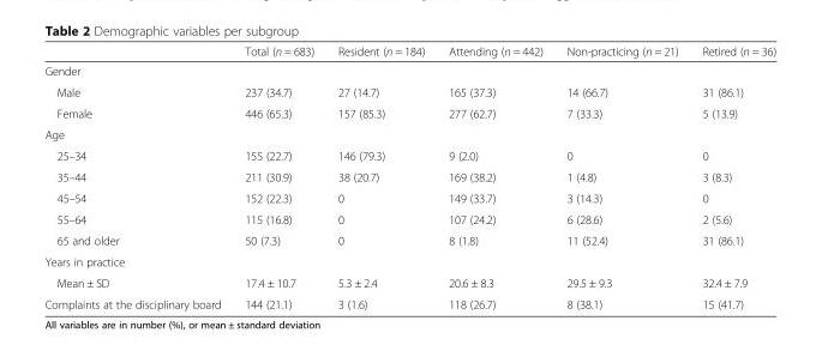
<table><thead><tr><td></td><td>Total (n = 683)</td><td>Resident (n = 184)</td><td>Attending (n = 442)</td><td>Non-practicing (n = 21)</td><td>Retired (n = 36)</td></tr></thead><tbody><tr><td colspan="6">Gender</td></tr><tr><td>Male</td><td>237 (34.7)</td><td>27 (14.7)</td><td>165 (37.3)</td><td>14 (66.7)</td><td>31 (86.1)</td></tr><tr><td>Female</td><td>446 (65.3)</td><td>157 (85.3)</td><td>277 (62.7)</td><td>7 (33.3)</td><td>5 (13.9)</td></tr><tr><td colspan="6">Age</td></tr><tr><td>25–34</td><td>155 (22.7)</td><td>146 (79.3)</td><td>9 (2.0)</td><td>0</td><td>0</td></tr><tr><td>35–44</td><td>211 (30.9)</td><td>38 (20.7)</td><td>169 (38.2)</td><td>1 (4.8)</td><td>3 (8.3)</td></tr><tr><td>45–54</td><td>152 (22.3)</td><td>0</td><td>149 (33.7)</td><td>3 (14.3)</td><td>0</td></tr><tr><td>55–64</td><td>115 (16.8)</td><td>0</td><td>107 (24.2)</td><td>6 (28.6)</td><td>2 (5.6)</td></tr><tr><td>65 and older</td><td>50 (7.3)</td><td>0</td><td>8 (1.8)</td><td>11 (52.4)</td><td>31 (86.1)</td></tr><tr><td colspan="6">Years in practice</td></tr><tr><td>Mean ± SD</td><td>17.4 ± 10.7</td><td>5.3 ± 2.4</td><td>20.6 ± 8.3</td><td>29.5 ± 9.3</td><td>32.4 ± 7.9</td></tr><tr><td>Complaints at the disciplinary board</td><td>144 (21.1)</td><td>3 (1.6)</td><td>118 (26.7)</td><td>8 (38.1)</td><td>15 (41.7)</td></tr></tbody></table>